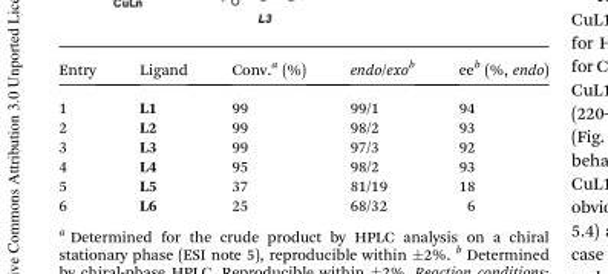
<table><thead><tr><td>Entry</td><td>Ligand</td><td>Conv.<sup>a</sup> (%)</td><td>endo/exo<sup>b</sup></td><td>ee<sup>b</sup> (%, endo)</td></tr></thead><tbody><tr><td>1</td><td>L1</td><td>99</td><td>99/1</td><td>94</td></tr><tr><td>2</td><td>L2</td><td>99</td><td>98/2</td><td>93</td></tr><tr><td>3</td><td>L3</td><td>99</td><td>97/3</td><td>92</td></tr><tr><td>4</td><td>L4</td><td>95</td><td>98/2</td><td>93</td></tr><tr><td>5</td><td>L5</td><td>37</td><td>81/19</td><td>18</td></tr><tr><td>6</td><td>L6</td><td>25</td><td>68/32</td><td>6</td></tr></tbody></table>